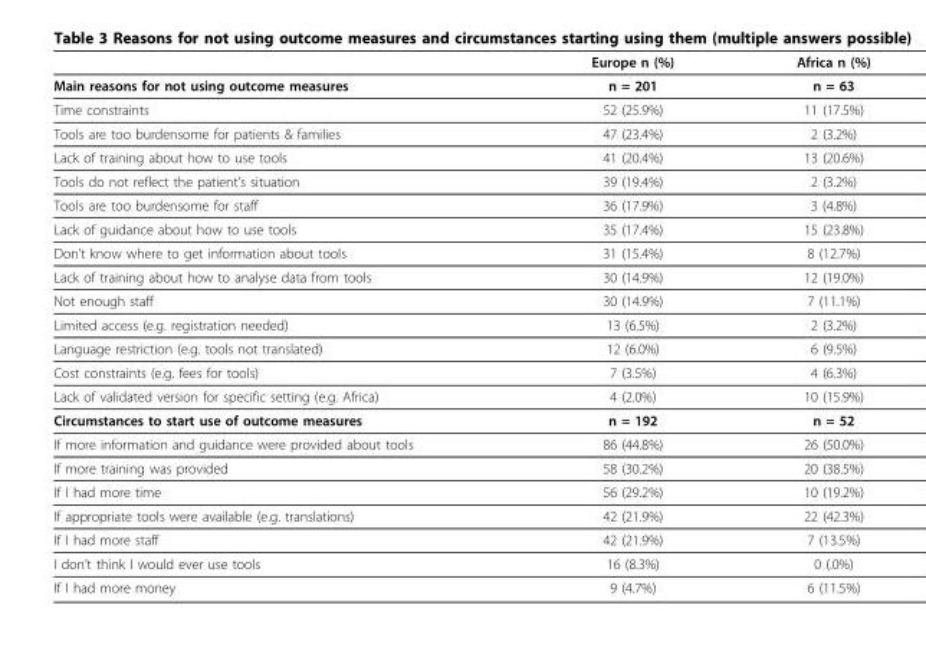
<table><thead><tr><td></td><td>Europe n (%)</td><td>Africa n (%)</td></tr></thead><tbody><tr><td>Main reasons for not using outcome measures</td><td>n = 201</td><td>n = 63</td></tr><tr><td>Time constraints</td><td>52 (25.9%)</td><td>11 (17.5%)</td></tr><tr><td>Tools are too burdensome for patients &amp; families</td><td>47 (23.4%)</td><td>2 (3.2%)</td></tr><tr><td>Lack of training about how to use tools</td><td>41 (20.4%)</td><td>13 (20.6%)</td></tr><tr><td>Tools do not reflect the patient’s situation</td><td>39 (19.4%)</td><td>2 (3.2%)</td></tr><tr><td>Tools are too burdensome for staff</td><td>36 (17.9%)</td><td>3 (4.8%)</td></tr><tr><td>Lack of guidance about how to use tools</td><td>35 (17.4%)</td><td>15 (23.8%)</td></tr><tr><td>Don’t know where to get information about tools</td><td>31 (15.4%)</td><td>8 (12.7%)</td></tr><tr><td>Lack of training about how to analyse data from tools</td><td>30 (14.9%)</td><td>12 (19.0%)</td></tr><tr><td>Not enough staff</td><td>30 (14.9%)</td><td>7 (11.1%)</td></tr><tr><td>Limited access (e.g. registration needed)</td><td>13 (6.5%)</td><td>2 (3.2%)</td></tr><tr><td>Language restriction (e.g. tools not translated)</td><td>12 (6.0%)</td><td>6 (9.5%)</td></tr><tr><td>Cost constraints (e.g. fees for tools)</td><td>7 (3.5%)</td><td>4 (6.3%)</td></tr><tr><td>Lack of validated version for specific setting (e.g. Africa)</td><td>4 (2.0%)</td><td>10 (15.9%)</td></tr><tr><td>Circumstances to start use of outcome measures</td><td>n = 192</td><td>n = 52</td></tr><tr><td>If more information and guidance were provided about tools</td><td>86 (44.8%)</td><td>26 (50.0%)</td></tr><tr><td>If more training was provided</td><td>58 (30.2%)</td><td>20 (38.5%)</td></tr><tr><td>If I had more time</td><td>56 (29.2%)</td><td>10 (19.2%)</td></tr><tr><td>If appropriate tools were available (e.g. translations)</td><td>42 (21.9%)</td><td>22 (42.3%)</td></tr><tr><td>If I had more staff</td><td>42 (21.9%)</td><td>7 (13.5%)</td></tr><tr><td>I don’t think I would ever use tools</td><td>16 (8.3%)</td><td>0 (.0%)</td></tr><tr><td>If I had more money</td><td>9 (4.7%)</td><td>6 (11.5%)</td></tr></tbody></table>